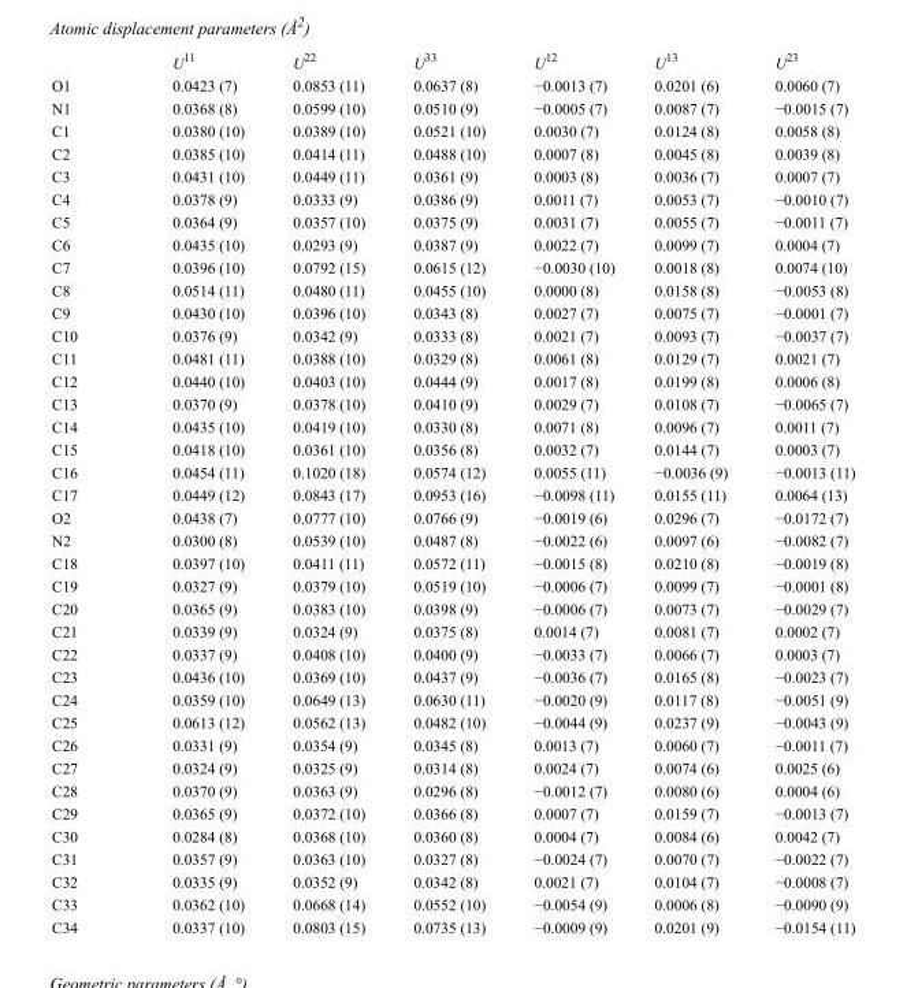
<table><thead><tr><td></td><td>U<sup>11</sup></td><td>U<sup>22</sup></td><td>U<sup>33</sup></td><td>U<sup>12</sup></td><td>U<sup>13</sup></td><td>U<sup>23</sup></td></tr></thead><tbody><tr><td>O1</td><td>0.0423 (7)</td><td>0.0853 (11)</td><td>0.0637 (8)</td><td>−0.0013 (7)</td><td>0.0201 (6)</td><td>0.0060 (7)</td></tr><tr><td>N1</td><td>0.0368 (8)</td><td>0.0599 (10)</td><td>0.0510 (9)</td><td>−0.0005 (7)</td><td>0.0087 (7)</td><td>−0.0015 (7)</td></tr><tr><td>C1</td><td>0.0380 (10)</td><td>0.0389 (10)</td><td>0.0521 (10)</td><td>0.0030 (7)</td><td>0.0124 (8)</td><td>0.0058 (8)</td></tr><tr><td>C2</td><td>0.0385 (10)</td><td>0.0414 (11)</td><td>0.0488 (10)</td><td>0.0007 (8)</td><td>0.0045 (8)</td><td>0.0039 (8)</td></tr><tr><td>C3</td><td>0.0431 (10)</td><td>0.0449 (11)</td><td>0.0361 (9)</td><td>0.0003 (8)</td><td>0.0036 (7)</td><td>0.0007 (7)</td></tr><tr><td>C4</td><td>0.0378 (9)</td><td>0.0333 (9)</td><td>0.0386 (9)</td><td>0.0011 (7)</td><td>0.0053 (7)</td><td>−0.0010 (7)</td></tr><tr><td>C5</td><td>0.0364 (9)</td><td>0.0357 (10)</td><td>0.0375 (9)</td><td>0.0031 (7)</td><td>0.0055 (7)</td><td>−0.0011 (7)</td></tr><tr><td>C6</td><td>0.0435 (10)</td><td>0.0293 (9)</td><td>0.0387 (9)</td><td>0.0022 (7)</td><td>0.0099 (7)</td><td>0.0004 (7)</td></tr><tr><td>C7</td><td>0.0396 (10)</td><td>0.0792 (15)</td><td>0.0615 (12)</td><td>−0.0030 (10)</td><td>0.0018 (8)</td><td>0.0074 (10)</td></tr><tr><td>C8</td><td>0.0514 (11)</td><td>0.0480 (11)</td><td>0.0455 (10)</td><td>0.0000 (8)</td><td>0.0158 (8)</td><td>−0.0053 (8)</td></tr><tr><td>C9</td><td>0.0430 (10)</td><td>0.0396 (10)</td><td>0.0343 (8)</td><td>0.0027 (7)</td><td>0.0075 (7)</td><td>−0.0001 (7)</td></tr><tr><td>C10</td><td>0.0376 (9)</td><td>0.0342 (9)</td><td>0.0333 (8)</td><td>0.0021 (7)</td><td>0.0093 (7)</td><td>−0.0037 (7)</td></tr><tr><td>C11</td><td>0.0481 (11)</td><td>0.0388 (10)</td><td>0.0329 (8)</td><td>0.0061 (8)</td><td>0.0129 (7)</td><td>0.0021 (7)</td></tr><tr><td>C12</td><td>0.0440 (10)</td><td>0.0403 (10)</td><td>0.0444 (9)</td><td>0.0017 (8)</td><td>0.0199 (8)</td><td>0.0006 (8)</td></tr><tr><td>C13</td><td>0.0370 (9)</td><td>0.0378 (10)</td><td>0.0410 (9)</td><td>0.0029 (7)</td><td>0.0108 (7)</td><td>−0.0065 (7)</td></tr><tr><td>C14</td><td>0.0435 (10)</td><td>0.0419 (10)</td><td>0.0330 (8)</td><td>0.0071 (8)</td><td>0.0096 (7)</td><td>0.0011 (7)</td></tr><tr><td>C15</td><td>0.0418 (10)</td><td>0.0361 (10)</td><td>0.0356 (8)</td><td>0.0032 (7)</td><td>0.0144 (7)</td><td>0.0003 (7)</td></tr><tr><td>C16</td><td>0.0454 (11)</td><td>0.1020 (18)</td><td>0.0574 (12)</td><td>0.0055 (11)</td><td>−0.0036 (9)</td><td>−0.0013 (11)</td></tr><tr><td>C17</td><td>0.0449 (12)</td><td>0.0843 (17)</td><td>0.0953 (16)</td><td>−0.0098 (11)</td><td>0.0155 (11)</td><td>0.0064 (13)</td></tr><tr><td>O2</td><td>0.0438 (7)</td><td>0.0777 (10)</td><td>0.0766 (9)</td><td>−0.0019 (6)</td><td>0.0296 (7)</td><td>−0.0172 (7)</td></tr><tr><td>N2</td><td>0.0300 (8)</td><td>0.0539 (10)</td><td>0.0487 (8)</td><td>−0.0022 (6)</td><td>0.0097 (6)</td><td>−0.0082 (7)</td></tr><tr><td>C18</td><td>0.0397 (10)</td><td>0.0411 (11)</td><td>0.0572 (11)</td><td>−0.0015 (8)</td><td>0.0210 (8)</td><td>−0.0019 (8)</td></tr><tr><td>C19</td><td>0.0327 (9)</td><td>0.0379 (10)</td><td>0.0519 (10)</td><td>−0.0006 (7)</td><td>0.0099 (7)</td><td>−0.0001 (8)</td></tr><tr><td>C20</td><td>0.0365 (9)</td><td>0.0383 (10)</td><td>0.0398 (9)</td><td>−0.0006 (7)</td><td>0.0073 (7)</td><td>−0.0029 (7)</td></tr><tr><td>C21</td><td>0.0339 (9)</td><td>0.0324 (9)</td><td>0.0375 (8)</td><td>0.0014 (7)</td><td>0.0081 (7)</td><td>0.0002 (7)</td></tr><tr><td>C22</td><td>0.0337 (9)</td><td>0.0408 (10)</td><td>0.0400 (9)</td><td>−0.0033 (7)</td><td>0.0066 (7)</td><td>0.0003 (7)</td></tr><tr><td>C23</td><td>0.0436 (10)</td><td>0.0369 (10)</td><td>0.0437 (9)</td><td>−0.0036 (7)</td><td>0.0165 (8)</td><td>−0.0023 (7)</td></tr><tr><td>C24</td><td>0.0359 (10)</td><td>0.0649 (13)</td><td>0.0630 (11)</td><td>−0.0020 (9)</td><td>0.0117 (8)</td><td>−0.0051 (9)</td></tr><tr><td>C25</td><td>0.0613 (12)</td><td>0.0562 (13)</td><td>0.0482 (10)</td><td>−0.0044 (9)</td><td>0.0237 (9)</td><td>−0.0043 (9)</td></tr><tr><td>C26</td><td>0.0331 (9)</td><td>0.0354 (9)</td><td>0.0345 (8)</td><td>0.0013 (7)</td><td>0.0060 (7)</td><td>−0.0011 (7)</td></tr><tr><td>C27</td><td>0.0324 (9)</td><td>0.0325 (9)</td><td>0.0314 (8)</td><td>0.0024 (7)</td><td>0.0074 (6)</td><td>0.0025 (6)</td></tr><tr><td>C28</td><td>0.0370 (9)</td><td>0.0363 (9)</td><td>0.0296 (8)</td><td>−0.0012 (7)</td><td>0.0080 (6)</td><td>0.0004 (6)</td></tr><tr><td>C29</td><td>0.0365 (9)</td><td>0.0372 (10)</td><td>0.0366 (8)</td><td>0.0007 (7)</td><td>0.0159 (7)</td><td>−0.0013 (7)</td></tr><tr><td>C30</td><td>0.0284 (8)</td><td>0.0368 (10)</td><td>0.0360 (8)</td><td>0.0004 (7)</td><td>0.0084 (6)</td><td>0.0042 (7)</td></tr><tr><td>C31</td><td>0.0357 (9)</td><td>0.0363 (10)</td><td>0.0327 (8)</td><td>−0.0024 (7)</td><td>0.0070 (7)</td><td>−0.0022 (7)</td></tr><tr><td>C32</td><td>0.0335 (9)</td><td>0.0352 (9)</td><td>0.0342 (8)</td><td>0.0021 (7)</td><td>0.0104 (7)</td><td>−0.0008 (7)</td></tr><tr><td>C33</td><td>0.0362 (10)</td><td>0.0668 (14)</td><td>0.0552 (10)</td><td>−0.0054 (9)</td><td>0.0006 (8)</td><td>−0.0090 (9)</td></tr><tr><td>C34</td><td>0.0337 (10)</td><td>0.0803 (15)</td><td>0.0735 (13)</td><td>−0.0009 (9)</td><td>0.0201 (9)</td><td>−0.0154 (11)</td></tr></tbody></table>